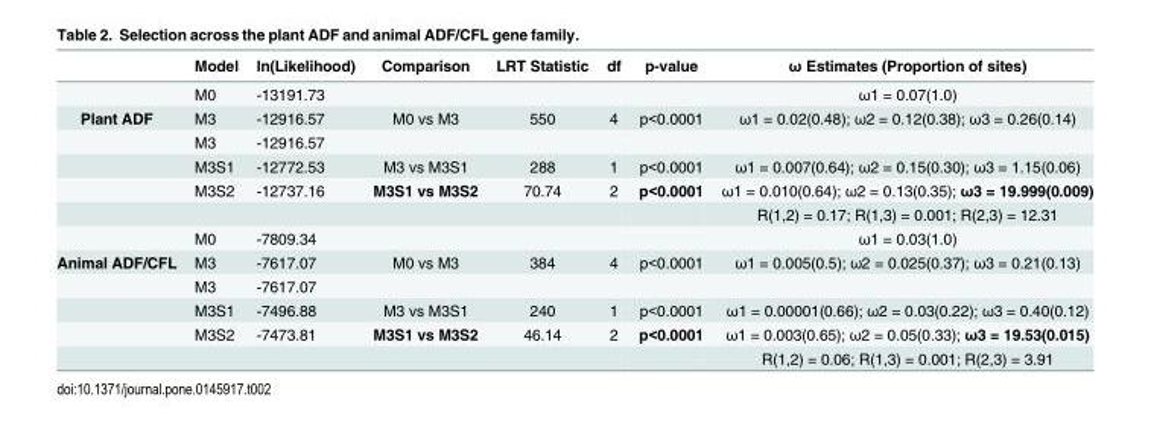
<table><thead><tr><td></td><td>Model</td><td>ln(Likelihood)</td><td>Comparison</td><td>LRT Statistic</td><td>df</td><td>p-value</td><td>ω Estimates (Proportion of sites)</td></tr></thead><tbody><tr><td></td><td>M0</td><td>-13191.73</td><td></td><td></td><td></td><td></td><td>ω1 = 0.07(1.0)</td></tr><tr><td rowspan="6">Plant ADF</td><td>M3</td><td>-12916.57</td><td>M0 vs M3</td><td>550</td><td>4</td><td>p&lt;0.0001</td><td>ω1 = 0.02(0.48); ω2 = 0.12(0.38); ω3 = 0.26(0.14)</td></tr><tr><td>M3</td><td>-12916.57</td><td></td><td></td><td></td><td></td><td></td></tr><tr><td>M3S1</td><td>-12772.53</td><td>M3 vs M3S1</td><td>288</td><td>1</td><td>p&lt;0.0001</td><td>ω1 = 0.007(0.64); ω2 = 0.15(0.30); ω3 = 1.15(0.06)</td></tr><tr><td>M3S2</td><td>-12737.16</td><td>M3S1 vs M3S2</td><td>70.74</td><td>2</td><td>p&lt;0.0001</td><td>ω1 = 0.010(0.64); ω2 = 0.13(0.35); ω3 = 19.999(0.009)</td></tr><tr><td></td><td></td><td></td><td></td><td></td><td></td><td>R(1,2) = 0.17; R(1,3) = 0.001; R(2,3) = 12.31</td></tr><tr><td>M0</td><td>-7809.34</td><td></td><td></td><td></td><td></td><td>ω1 = 0.03(1.0)</td></tr><tr><td rowspan="5">Animal ADF/CFL</td><td>M3</td><td>-7617.07</td><td>M0 vs M3</td><td>384</td><td>4</td><td>p&lt;0.0001</td><td>ω1 = 0.005(0.5); ω2 = 0.025(0.37); ω3 = 0.21(0.13)</td></tr><tr><td>M3</td><td>-7617.07</td><td></td><td></td><td></td><td></td><td></td></tr><tr><td>M3S1</td><td>-7496.88</td><td>M3 vs M3S1</td><td>240</td><td>1</td><td>p&lt;0.0001</td><td>ω1 = 0.00001(0.66); ω2 = 0.03(0.22); ω3 = 0.40(0.12)</td></tr><tr><td>M3S2</td><td>-7473.81</td><td>M3S1 vs M3S2</td><td>46.14</td><td>2</td><td>p&lt;0.0001</td><td>ω1 = 0.003(0.65); ω2 = 0.05(0.33); ω3 = 19.53(0.015)</td></tr><tr><td></td><td></td><td></td><td></td><td></td><td></td><td>R(1,2) = 0.06; R(1,3) = 0.001; R(2,3) = 3.91</td></tr></tbody></table>